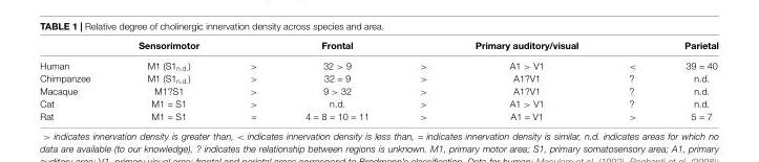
<table><thead><tr><td></td><td>Sensorimotor</td><td></td><td>Frontal</td><td></td><td>Primary auditory/visual</td><td></td><td>Parietal</td></tr></thead><tbody><tr><td>Human</td><td>M1 (S1<sub>n.d.</sub>)</td><td>&gt;</td><td>32 &gt; 9</td><td>&gt;</td><td>A1 &gt; V1</td><td>&lt;</td><td>39 = 40</td></tr><tr><td>Chimpanzee</td><td>M1 (S1<sub>n.d.</sub>)</td><td>&gt;</td><td>32 = 9</td><td>&gt;</td><td>A1?V1</td><td>?</td><td>n.d.</td></tr><tr><td>Macaque</td><td>M1?S1</td><td>&gt;</td><td>9 &gt; 32</td><td>&gt;</td><td>A1?V1</td><td>?</td><td>n.d.</td></tr><tr><td>Cat</td><td>M1 = S1</td><td>&gt;</td><td>n.d.</td><td>&gt;</td><td>A1 &gt; V1</td><td>?</td><td>n.d.</td></tr><tr><td>Rat</td><td>M1 = S1</td><td>=</td><td>4 = 8 = 10 = 11</td><td>&gt;</td><td>A1 = V1</td><td>&gt;</td><td>5 = 7</td></tr></tbody></table>